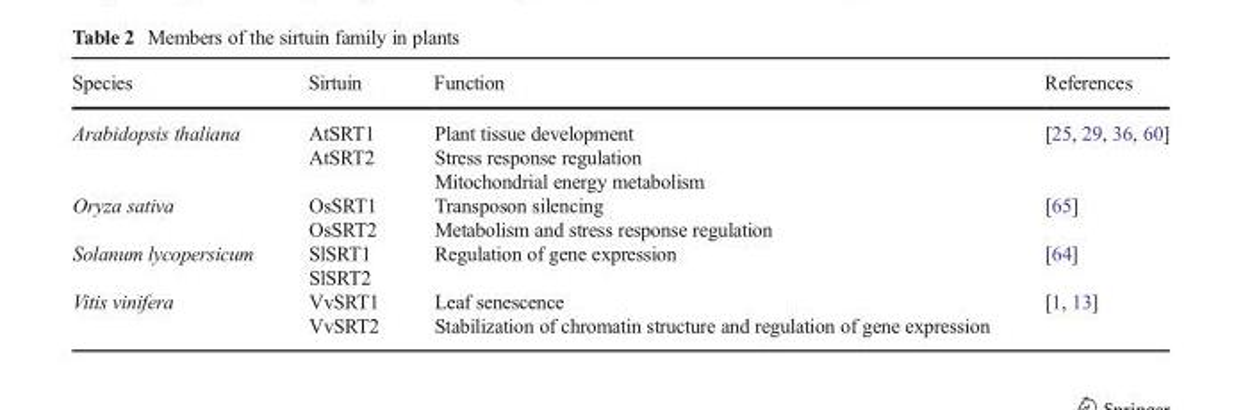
<table><thead><tr><td>Species</td><td>Sirtuin</td><td>Function</td><td>References</td></tr></thead><tbody><tr><td>Arabidopsis thaliana</td><td>AtSRT1 AtSRT2</td><td>Plant tissue development Stress response regulation Mitochondrial energy metabolism</td><td>[25, 29, 36, 60]</td></tr><tr><td>Oryza sativa</td><td>OsSRT1 OsSRT2</td><td>Transposon silencing Metabolism and stress response regulation</td><td>[65]</td></tr><tr><td>Solanum lycopersicum</td><td>SlSRT1 SlSRT2</td><td>Regulation of gene expression</td><td>[64]</td></tr><tr><td>Vitis vinifera</td><td>VvSRT1 VvSRT2</td><td>Leaf senescence Stabilization of chromatin structure and regulation of gene expression</td><td>[1, 13]</td></tr></tbody></table>